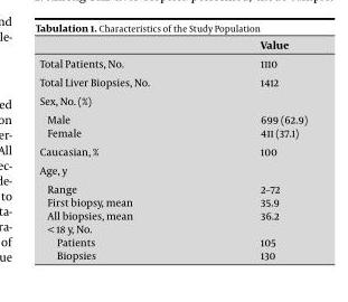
<table><thead><tr><td></td><td>Value</td></tr></thead><tbody><tr><td>Total Patients, No.</td><td>1110</td></tr><tr><td>Total Liver Biopsies, No.</td><td>1412</td></tr><tr><td colspan="2">Sex, No. (%)</td></tr><tr><td>Male</td><td>699 (62.9)</td></tr><tr><td>Female</td><td>411 (37.1)</td></tr><tr><td>Caucasian, %</td><td>100</td></tr><tr><td colspan="2">Age, y</td></tr><tr><td>Range</td><td>2–72</td></tr><tr><td>First biopsy, mean</td><td>35.9</td></tr><tr><td>All biopsies, mean</td><td>36.2</td></tr><tr><td colspan="2">&lt; 18 y, No.</td></tr><tr><td>Patients</td><td>105</td></tr><tr><td>Biopsies</td><td>130</td></tr></tbody></table>